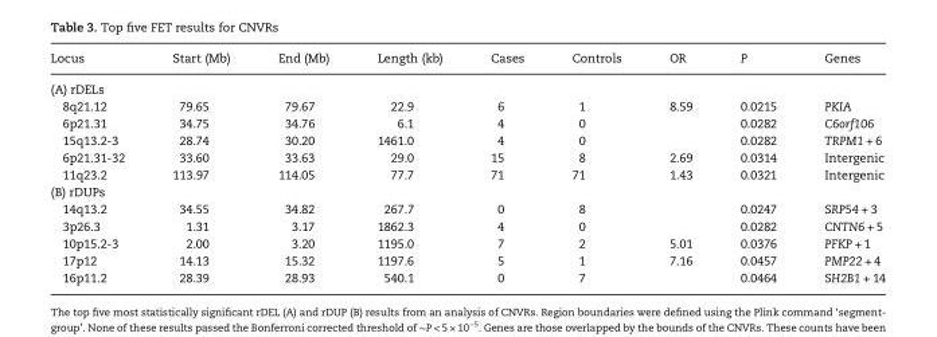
<table><thead><tr><td>Locus</td><td>Start (Mb)</td><td>End (Mb)</td><td>Length (kb)</td><td>Cases</td><td>Controls</td><td>OR</td><td>P</td><td>Genes</td></tr></thead><tbody><tr><td colspan="9">(A) rDELs</td></tr><tr><td>8q21.12</td><td>79.65</td><td>79.67</td><td>22.9</td><td>6</td><td>1</td><td>8.59</td><td>0.0215</td><td>PKIA</td></tr><tr><td>6p21.31</td><td>34.75</td><td>34.76</td><td>6.1</td><td>4</td><td>0</td><td></td><td>0.0282</td><td>C6orf106</td></tr><tr><td>15q13.2-3</td><td>28.74</td><td>30.20</td><td>1461.0</td><td>4</td><td>0</td><td></td><td>0.0282</td><td>TRPM1 + 6</td></tr><tr><td>6p21.31-32</td><td>33.60</td><td>33.63</td><td>29.0</td><td>15</td><td>8</td><td>2.69</td><td>0.0314</td><td>Intergenic</td></tr><tr><td>11q23.2</td><td>113.97</td><td>114.05</td><td>77.7</td><td>71</td><td>71</td><td>1.43</td><td>0.0321</td><td>Intergenic</td></tr><tr><td colspan="9">(B) rDUPs</td></tr><tr><td>14q13.2</td><td>34.55</td><td>34.82</td><td>267.7</td><td>0</td><td>8</td><td></td><td>0.0247</td><td>SRP54 + 3</td></tr><tr><td>3p26.3</td><td>1.31</td><td>3.17</td><td>1862.3</td><td>4</td><td>0</td><td></td><td>0.0282</td><td>CNTN6 + 5</td></tr><tr><td>10p15.2-3</td><td>2.00</td><td>3.20</td><td>1195.0</td><td>7</td><td>2</td><td>5.01</td><td>0.0376</td><td>PFKP + 1</td></tr><tr><td>17p12</td><td>14.13</td><td>15.32</td><td>1197.6</td><td>5</td><td>1</td><td>7.16</td><td>0.0457</td><td>PMP22 + 4</td></tr><tr><td>16p11.2</td><td>28.39</td><td>28.93</td><td>540.1</td><td>0</td><td>7</td><td></td><td>0.0464</td><td>SH2B1 + 14</td></tr></tbody></table>